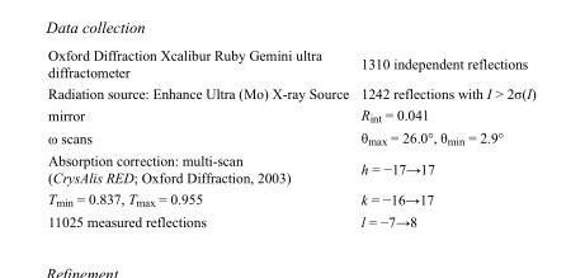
<table><tbody><tr><td>Oxford Diffraction Xcalibur Ruby Gemini ultra diffractometer</td><td>1310 independent reflections</td></tr><tr><td>Radiation source: Enhance Ultra (Mo) X-ray Source</td><td>1242 reflections with I &gt; 2σ(I)</td></tr><tr><td>mirror</td><td>R<sub>int</sub> = 0.041</td></tr><tr><td>ω scans</td><td>θ<sub>max</sub> = 26.0°, θ<sub>min</sub> = 2.9°</td></tr><tr><td>Absorption correction: multi-scan (CrysAlis RED; Oxford Diffraction, 2003)</td><td>h = −17→17</td></tr><tr><td>T<sub>min</sub> = 0.837, T<sub>max</sub> = 0.955</td><td>k = −16→17</td></tr><tr><td>11025 measured reflections</td><td>l = −7→8</td></tr></tbody></table>